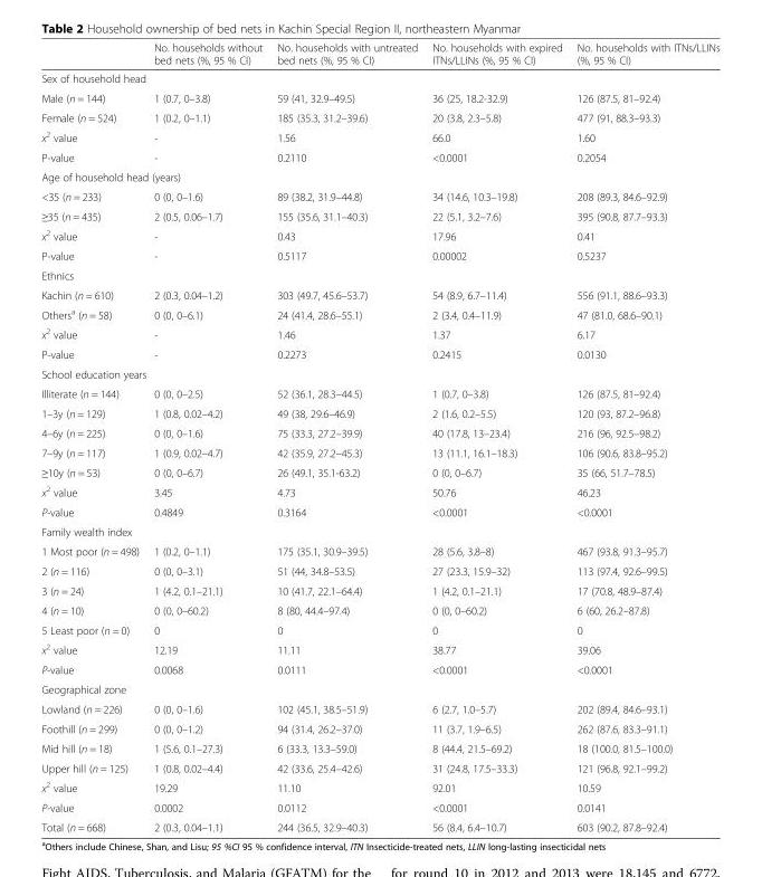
<table><thead><tr><td></td><td>No. households without bed nets (%, 95 % CI)</td><td>No. households with untreated bed nets (%, 95 % CI)</td><td>No. households with expired ITNs/LLINs (%, 95 % CI)</td><td>No. households with ITNs/LLINs (%, 95 % CI)</td></tr></thead><tbody><tr><td colspan="5">Sex of household head</td></tr><tr><td>Male (n = 144)</td><td>1 (0.7, 0–3.8)</td><td>59 (41, 32.9–49.5)</td><td>36 (25, 18.2-32.9)</td><td>126 (87.5, 81–92.4)</td></tr><tr><td>Female (n = 524)</td><td>1 (0.2, 0–1.1)</td><td>185 (35.3, 31.2–39.6)</td><td>20 (3.8, 2.3–5.8)</td><td>477 (91, 88.3–93.3)</td></tr><tr><td>x<sup>2</sup> value</td><td>-</td><td>1.56</td><td>66.0</td><td>1.60</td></tr><tr><td>P-value</td><td>-</td><td>0.2110</td><td>&lt;0.0001</td><td>0.2054</td></tr><tr><td colspan="5">Age of household head (years)</td></tr><tr><td>&lt;35 (n = 233)</td><td>0 (0, 0–1.6)</td><td>89 (38.2, 31.9–44.8)</td><td>34 (14.6, 10.3–19.8)</td><td>208 (89.3, 84.6–92.9)</td></tr><tr><td>≥35 (n = 435)</td><td>2 (0.5, 0.06–1.7)</td><td>155 (35.6, 31.1–40.3)</td><td>22 (5.1, 3.2–7.6)</td><td>395 (90.8, 87.7–93.3)</td></tr><tr><td>x<sup>2</sup> value</td><td>-</td><td>0.43</td><td>17.96</td><td>0.41</td></tr><tr><td>P-value</td><td>-</td><td>0.5117</td><td>0.00002</td><td>0.5237</td></tr><tr><td colspan="5">Ethnics</td></tr><tr><td>Kachin (n = 610)</td><td>2 (0.3, 0.04–1.2)</td><td>303 (49.7, 45.6–53.7)</td><td>54 (8.9, 6.7–11.4)</td><td>556 (91.1, 88.6–93.3)</td></tr><tr><td>Others<sup>a</sup> (n = 58)</td><td>0 (0, 0–6.1)</td><td>24 (41.4, 28.6–55.1)</td><td>2 (3.4, 0.4–11.9)</td><td>47 (81.0, 68.6–90.1)</td></tr><tr><td>x<sup>2</sup> value</td><td>-</td><td>1.46</td><td>1.37</td><td>6.17</td></tr><tr><td>P-value</td><td>-</td><td>0.2273</td><td>0.2415</td><td>0.0130</td></tr><tr><td colspan="5">School education years</td></tr><tr><td>Illiterate (n = 144)</td><td>0 (0, 0–2.5)</td><td>52 (36.1, 28.3–44.5)</td><td>1 (0.7, 0–3.8)</td><td>126 (87.5, 81–92.4)</td></tr><tr><td>1–3y (n = 129)</td><td>1 (0.8, 0.02–4.2)</td><td>49 (38, 29.6–46.9)</td><td>2 (1.6, 0.2–5.5)</td><td>120 (93, 87.2–96.8)</td></tr><tr><td>4–6y (n = 225)</td><td>0 (0, 0–1.6)</td><td>75 (33.3, 27.2–39.9)</td><td>40 (17.8, 13–23.4)</td><td>216 (96, 92.5–98.2)</td></tr><tr><td>7–9y (n = 117)</td><td>1 (0.9, 0.02–4.7)</td><td>42 (35.9, 27.2–45.3)</td><td>13 (11.1, 16.1–18.3)</td><td>106 (90.6, 83.8–95.2)</td></tr><tr><td>≥10y (n = 53)</td><td>0 (0, 0–6.7)</td><td>26 (49.1, 35.1-63.2)</td><td>0 (0, 0–6.7)</td><td>35 (66, 51.7–78.5)</td></tr><tr><td>x<sup>2</sup> value</td><td>3.45</td><td>4.73</td><td>50.76</td><td>46.23</td></tr><tr><td>P-value</td><td>0.4849</td><td>0.3164</td><td>&lt;0.0001</td><td>&lt;0.0001</td></tr><tr><td colspan="5">Family wealth index</td></tr><tr><td>1 Most poor (n = 498)</td><td>1 (0.2, 0–1.1)</td><td>175 (35.1, 30.9–39.5)</td><td>28 (5.6, 3.8–8)</td><td>467 (93.8, 91.3–95.7)</td></tr><tr><td>2 (n = 116)</td><td>0 (0, 0–3.1)</td><td>51 (44, 34.8–53.5)</td><td>27 (23.3, 15.9–32)</td><td>113 (97.4, 92.6–99.5)</td></tr><tr><td>3 (n = 24)</td><td>1 (4.2, 0.1–21.1)</td><td>10 (41.7, 22.1–64.4)</td><td>1 (4.2, 0.1–21.1)</td><td>17 (70.8, 48.9–87.4)</td></tr><tr><td>4 (n = 10)</td><td>0 (0, 0–60.2)</td><td>8 (80, 44.4–97.4)</td><td>0 (0, 0–60.2)</td><td>6 (60, 26.2–87.8)</td></tr><tr><td>5 Least poor (n = 0)</td><td>0</td><td>0</td><td>0</td><td>0</td></tr><tr><td>x<sup>2</sup> value</td><td>12.19</td><td>11.11</td><td>38.77</td><td>39.06</td></tr><tr><td>P-value</td><td>0.0068</td><td>0.0111</td><td>&lt;0.0001</td><td>&lt;0.0001</td></tr><tr><td colspan="5">Geographical zone</td></tr><tr><td>Lowland (n = 226)</td><td>0 (0, 0–1.6)</td><td>102 (45.1, 38.5–51.9)</td><td>6 (2.7, 1.0–5.7)</td><td>202 (89.4, 84.6–93.1)</td></tr><tr><td>Foothill (n = 299)</td><td>0 (0, 0–1.2)</td><td>94 (31.4, 26.2–37.0)</td><td>11 (3.7, 1.9–6.5)</td><td>262 (87.6, 83.3–91.1)</td></tr><tr><td>Mid hill (n = 18)</td><td>1 (5.6, 0.1–27.3)</td><td>6 (33.3, 13.3–59.0)</td><td>8 (44.4, 21.5–69.2)</td><td>18 (100.0, 81.5–100.0)</td></tr><tr><td>Upper hill (n = 125)</td><td>1 (0.8, 0.02–4.4)</td><td>42 (33.6, 25.4–42.6)</td><td>31 (24.8, 17.5–33.3)</td><td>121 (96.8, 92.1–99.2)</td></tr><tr><td>x<sup>2</sup> value</td><td>19.29</td><td>11.10</td><td>92.01</td><td>10.59</td></tr><tr><td>P-value</td><td>0.0002</td><td>0.0112</td><td>&lt;0.0001</td><td>0.0141</td></tr><tr><td>Total (n = 668)</td><td>2 (0.3, 0.04–1.1)</td><td>244 (36.5, 32.9–40.3)</td><td>56 (8.4, 6.4–10.7)</td><td>603 (90.2, 87.8–92.4)</td></tr></tbody></table>